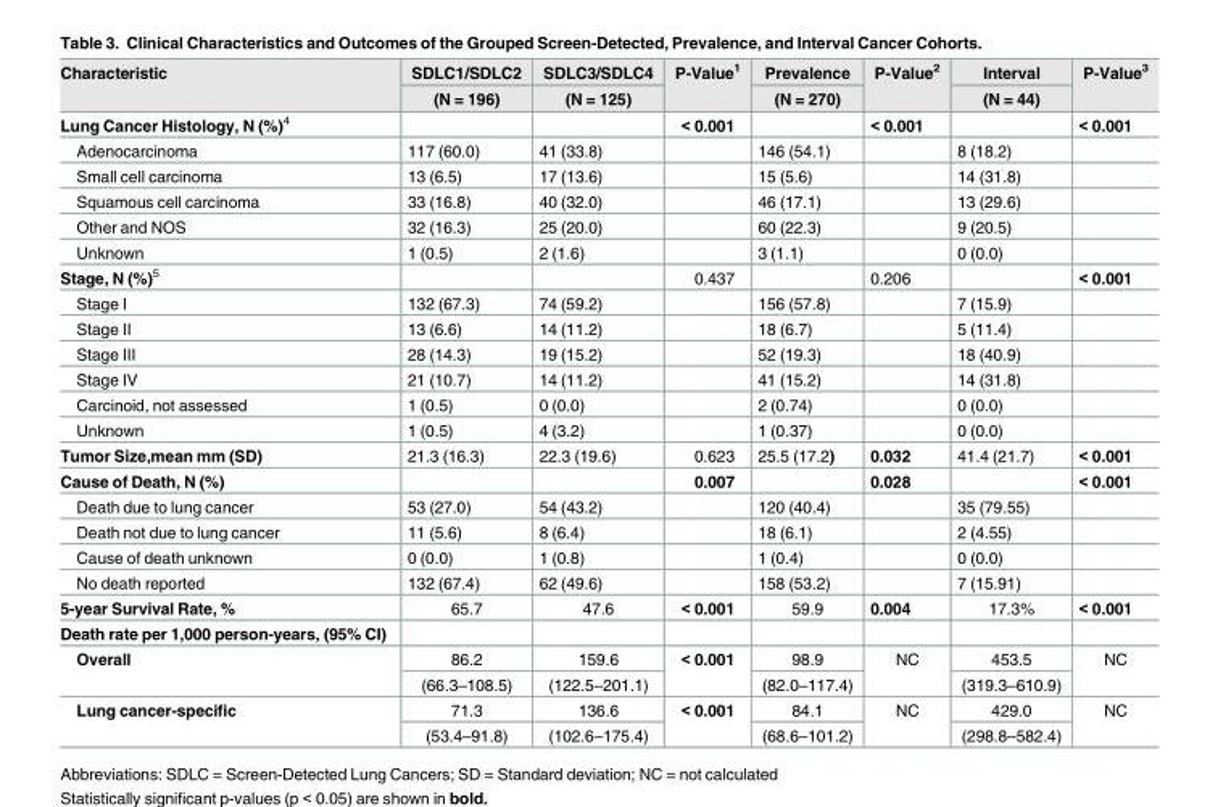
<table><thead><tr><td rowspan="2">Characteristic</td><td rowspan="2">SDLC1/SDLC2 (N = 196)</td><td rowspan="2">SDLC3/SDLC4 (N = 125)</td><td rowspan="2">P-Value<sup>1</sup></td><td rowspan="2">Prevalence (N = 270)</td><td rowspan="2">P-Value<sup>2</sup></td><td rowspan="2">Interval (N = 44)</td><td rowspan="2">P-Value<sup>3</sup></td></tr><tr></tr></thead><tbody><tr><td>Lung Cancer Histology, N (%)<sup>4</sup></td><td></td><td></td><td>&lt; 0.001</td><td></td><td>&lt; 0.001</td><td></td><td>&lt; 0.001</td></tr><tr><td>Adenocarcinoma</td><td>117 (60.0)</td><td>41 (33.8)</td><td></td><td>146 (54.1)</td><td></td><td>8 (18.2)</td><td></td></tr><tr><td>Small cell carcinoma</td><td>13 (6.5)</td><td>17 (13.6)</td><td></td><td>15 (5.6)</td><td></td><td>14 (31.8)</td><td></td></tr><tr><td>Squamous cell carcinoma</td><td>33 (16.8)</td><td>40 (32.0)</td><td></td><td>46 (17.1)</td><td></td><td>13 (29.6)</td><td></td></tr><tr><td>Other and NOS</td><td>32 (16.3)</td><td>25 (20.0)</td><td></td><td>60 (22.3)</td><td></td><td>9 (20.5)</td><td></td></tr><tr><td>Unknown</td><td>1 (0.5)</td><td>2 (1.6)</td><td></td><td>3 (1.1)</td><td></td><td>0 (0.0)</td><td></td></tr><tr><td>Stage, N (%)<sup>5</sup></td><td></td><td></td><td>0.437</td><td></td><td>0.206</td><td></td><td>&lt; 0.001</td></tr><tr><td>Stage I</td><td>132 (67.3)</td><td>74 (59.2)</td><td></td><td>156 (57.8)</td><td></td><td>7 (15.9)</td><td></td></tr><tr><td>Stage II</td><td>13 (6.6)</td><td>14 (11.2)</td><td></td><td>18 (6.7)</td><td></td><td>5 (11.4)</td><td></td></tr><tr><td>Stage III</td><td>28 (14.3)</td><td>19 (15.2)</td><td></td><td>52 (19.3)</td><td></td><td>18 (40.9)</td><td></td></tr><tr><td>Stage IV</td><td>21 (10.7)</td><td>14 (11.2)</td><td></td><td>41 (15.2)</td><td></td><td>14 (31.8)</td><td></td></tr><tr><td>Carcinoid, not assessed</td><td>1 (0.5)</td><td>0 (0.0)</td><td></td><td>2 (0.74)</td><td></td><td>0 (0.0)</td><td></td></tr><tr><td>Unknown</td><td>1 (0.5)</td><td>4 (3.2)</td><td></td><td>1 (0.37)</td><td></td><td>0 (0.0)</td><td></td></tr><tr><td>Tumor Size,mean mm (SD)</td><td>21.3 (16.3)</td><td>22.3 (19.6)</td><td>0.623</td><td>25.5 (17.2)</td><td>0.032</td><td>41.4 (21.7)</td><td>&lt; 0.001</td></tr><tr><td>Cause of Death, N (%)</td><td></td><td></td><td>0.007</td><td></td><td>0.028</td><td></td><td>&lt; 0.001</td></tr><tr><td>Death due to lung cancer</td><td>53 (27.0)</td><td>54 (43.2)</td><td></td><td>120 (40.4)</td><td></td><td>35 (79.55)</td><td></td></tr><tr><td>Death not due to lung cancer</td><td>11 (5.6)</td><td>8 (6.4)</td><td></td><td>18 (6.1)</td><td></td><td>2 (4.55)</td><td></td></tr><tr><td>Cause of death unknown</td><td>0 (0.0)</td><td>1 (0.8)</td><td></td><td>1 (0.4)</td><td></td><td>0 (0.0)</td><td></td></tr><tr><td>No death reported</td><td>132 (67.4)</td><td>62 (49.6)</td><td></td><td>158 (53.2)</td><td></td><td>7 (15.91)</td><td></td></tr><tr><td>5-year Survival Rate, %</td><td>65.7</td><td>47.6</td><td>&lt; 0.001</td><td>59.9</td><td>0.004</td><td>17.3%</td><td>&lt; 0.001</td></tr><tr><td colspan="8">Death rate per 1,000 person-years, (95% CI)</td></tr><tr><td rowspan="2">Overall</td><td>86.2</td><td>159.6</td><td rowspan="2">&lt; 0.001</td><td>98.9</td><td rowspan="2">NC</td><td>453.5</td><td rowspan="2">NC</td></tr><tr><td>(66.3–108.5)</td><td>(122.5–201.1)</td><td>(82.0–117.4)</td><td>(319.3–610.9)</td></tr><tr><td rowspan="2">Lung cancer-specific</td><td>71.3</td><td>136.6</td><td rowspan="2">&lt; 0.001</td><td>84.1</td><td rowspan="2">NC</td><td>429.0</td><td rowspan="2">NC</td></tr><tr><td>(53.4–91.8)</td><td>(102.6–175.4)</td><td>(68.6–101.2)</td><td>(298.8–582.4)</td></tr></tbody></table>